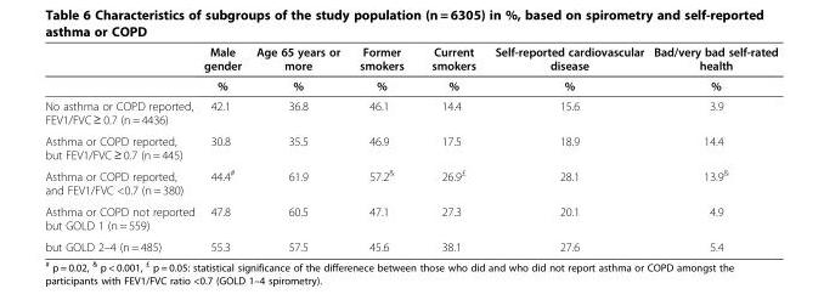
<table><thead><tr><td rowspan="2"></td><td rowspan="2">Male gender %</td><td rowspan="2">Age 65 years or more %</td><td rowspan="2">Former smokers %</td><td rowspan="2">Current smokers %</td><td rowspan="2">Self-reported cardiovascular disease %</td><td rowspan="2">Bad/very bad self-rated health %</td></tr><tr></tr></thead><tbody><tr><td>No asthma or COPD reported, FEV1/FVC ≥ 0.7 (n = 4436)</td><td>42.1</td><td>36.8</td><td>46.1</td><td>14.4</td><td>15.6</td><td>3.9</td></tr><tr><td>Asthma or COPD reported, but FEV1/FVC ≥ 0.7 (n = 445)</td><td>30.8</td><td>35.5</td><td>46.9</td><td>17.5</td><td>18.9</td><td>14.4</td></tr><tr><td>Asthma or COPD reported, and FEV1/FVC &lt;0.7 (n = 380)</td><td>44.4<sup>#</sup></td><td>61.9</td><td>57.2<sup>&amp;</sup></td><td>26.9<sup>£</sup></td><td>28.1</td><td>13.9<sup>&amp;</sup></td></tr><tr><td>Asthma or COPD not reported but GOLD 1 (n = 559)</td><td>47.8</td><td>60.5</td><td>47.1</td><td>27.3</td><td>20.1</td><td>4.9</td></tr><tr><td>but GOLD 2–4 (n = 485)</td><td>55.3</td><td>57.5</td><td>45.6</td><td>38.1</td><td>27.6</td><td>5.4</td></tr></tbody></table>